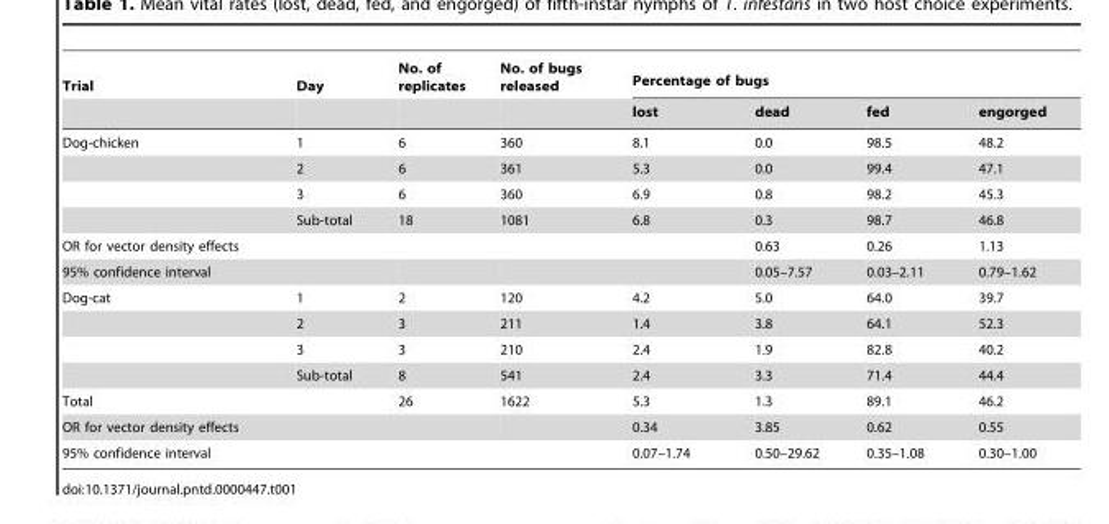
<table><thead><tr><td rowspan="2">Trial</td><td rowspan="2">Day</td><td rowspan="2">No. of replicates</td><td rowspan="2">No. of bugs released</td><td colspan="4">Percentage of bugs</td></tr><tr><td>lost</td><td>dead</td><td>fed</td><td>engorged</td></tr></thead><tbody><tr><td rowspan="4">Dog-chicken</td><td>1</td><td>6</td><td>360</td><td>8.1</td><td>0.0</td><td>98.5</td><td>48.2</td></tr><tr><td>2</td><td>6</td><td>361</td><td>5.3</td><td>0.0</td><td>99.4</td><td>47.1</td></tr><tr><td>3</td><td>6</td><td>360</td><td>6.9</td><td>0.8</td><td>98.2</td><td>45.3</td></tr><tr><td>Sub-total</td><td>18</td><td>1081</td><td>6.8</td><td>0.3</td><td>98.7</td><td>46.8</td></tr><tr><td colspan="3">OR for vector density effects</td><td></td><td></td><td>0.63</td><td>0.26</td><td>1.13</td></tr><tr><td colspan="2">95% confidence interval</td><td></td><td></td><td></td><td>0.05–7.57</td><td>0.03–2.11</td><td>0.79–1.62</td></tr><tr><td rowspan="4">Dog-cat</td><td>1</td><td>2</td><td>120</td><td>4.2</td><td>5.0</td><td>64.0</td><td>39.7</td></tr><tr><td>2</td><td>3</td><td>211</td><td>1.4</td><td>3.8</td><td>64.1</td><td>52.3</td></tr><tr><td>3</td><td>3</td><td>210</td><td>2.4</td><td>1.9</td><td>82.8</td><td>40.2</td></tr><tr><td>Sub-total</td><td>8</td><td>541</td><td>2.4</td><td>3.3</td><td>71.4</td><td>44.4</td></tr><tr><td>Total</td><td></td><td>26</td><td>1622</td><td>5.3</td><td>1.3</td><td>89.1</td><td>46.2</td></tr><tr><td colspan="3">OR for vector density effects</td><td></td><td>0.34</td><td>3.85</td><td>0.62</td><td>0.55</td></tr><tr><td colspan="2">95% confidence interval</td><td></td><td></td><td>0.07–1.74</td><td>0.50–29.62</td><td>0.35–1.08</td><td>0.30–1.00</td></tr></tbody></table>